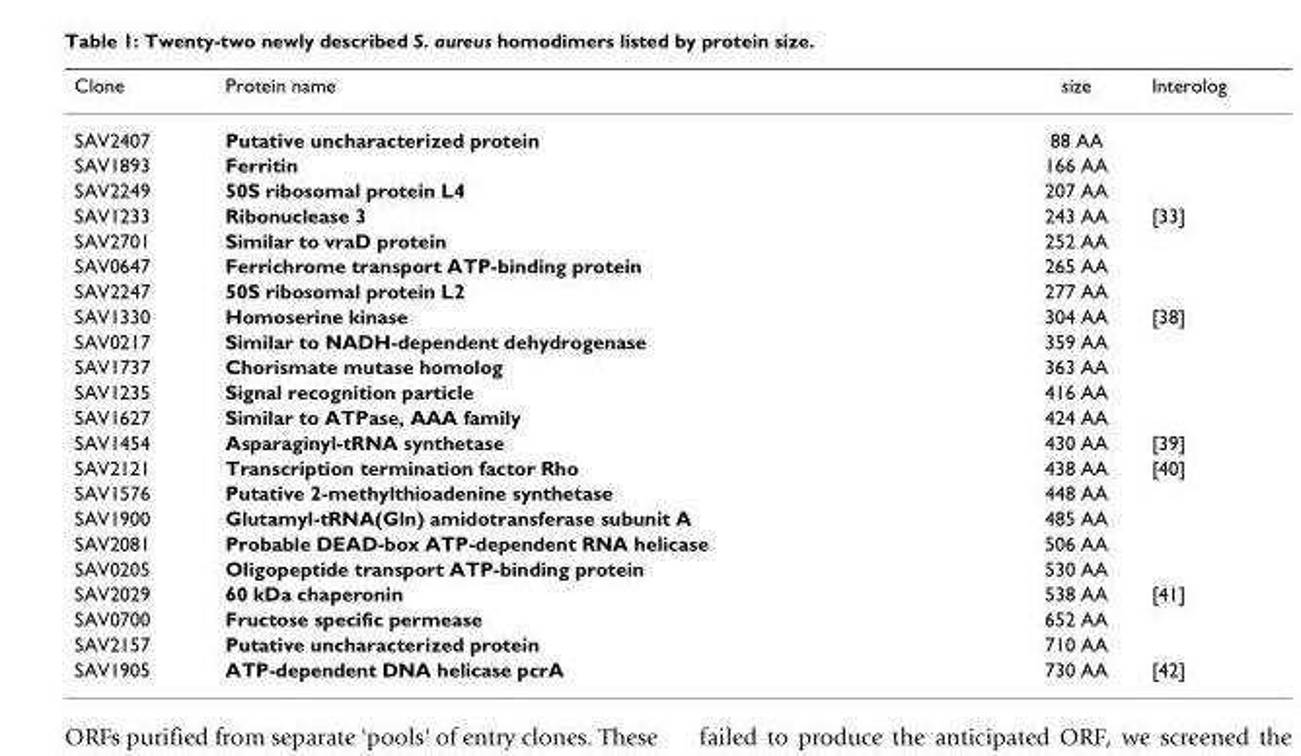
<table><thead><tr><td>Clone</td><td>Protein name</td><td>size</td><td>Interolog</td></tr></thead><tbody><tr><td>SAV2407</td><td>Putative uncharacterized protein</td><td>88 AA</td><td></td></tr><tr><td>SAV1893</td><td>Ferritin</td><td>166 AA</td><td></td></tr><tr><td>SAV2249</td><td>50S ribosomal protein L4</td><td>207 AA</td><td></td></tr><tr><td>SAV1233</td><td>Ribonuclease 3</td><td>243 AA</td><td>[33]</td></tr><tr><td>SAV2701</td><td>Similar to vraD protein</td><td>252 AA</td><td></td></tr><tr><td>SAV0647</td><td>Ferrichrome transport ATP-binding protein</td><td>265 AA</td><td></td></tr><tr><td>SAV2247</td><td>50S ribosomal protein L2</td><td>277 AA</td><td></td></tr><tr><td>SAV1330</td><td>Homoserine kinase</td><td>304 AA</td><td>[38]</td></tr><tr><td>SAV0217</td><td>Similar to NADH-dependent dehydrogenase</td><td>359 AA</td><td></td></tr><tr><td>SAV1737</td><td>Chorismate mutase homolog</td><td>363 AA</td><td></td></tr><tr><td>SAV1235</td><td>Signal recognition particle</td><td>416 AA</td><td></td></tr><tr><td>SAV1627</td><td>Similar to ATPase, AAA family</td><td>424 AA</td><td></td></tr><tr><td>SAV1454</td><td>Asparaginyl-tRNA synthetase</td><td>430 AA</td><td>[39]</td></tr><tr><td>SAV2121</td><td>Transcription termination factor Rho</td><td>438 AA</td><td>[40]</td></tr><tr><td>SAV1576</td><td>Putative 2-methylthioadenine synthetase</td><td>448 AA</td><td></td></tr><tr><td>SAV1900</td><td>Glutamyl-tRNA(Gln) amidotransferase subunit A</td><td>485 AA</td><td></td></tr><tr><td>SAV2081</td><td>Probable DEAD-box ATP-dependent RNA helicase</td><td>506 AA</td><td></td></tr><tr><td>SAV0205</td><td>Oligopeptide transport ATP-binding protein</td><td>530 AA</td><td></td></tr><tr><td>SAV2029</td><td>60 kDa chaperonin</td><td>538 AA</td><td>[41]</td></tr><tr><td>SAV0700</td><td>Fructose specific permease</td><td>652 AA</td><td></td></tr><tr><td>SAV2157</td><td>Putative uncharacterized protein</td><td>710 AA</td><td></td></tr><tr><td>SAV1905</td><td>ATP-dependent DNA helicase pcrA</td><td>730 AA</td><td>[42]</td></tr></tbody></table>